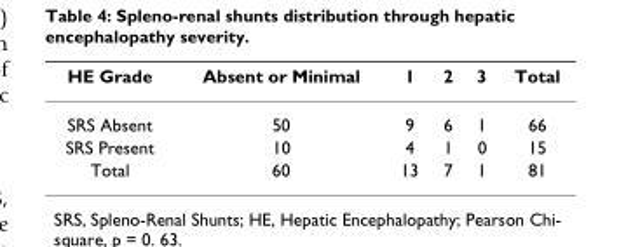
<table><thead><tr><td>HE Grade</td><td>Absent or Minimal</td><td>1</td><td>2</td><td>3</td><td>Total</td></tr></thead><tbody><tr><td>SRS Absent</td><td>50</td><td>9</td><td>6</td><td>1</td><td>66</td></tr><tr><td>SRS Present</td><td>10</td><td>4</td><td>1</td><td>0</td><td>15</td></tr><tr><td>Total</td><td>60</td><td>13</td><td>7</td><td>1</td><td>81</td></tr></tbody></table>